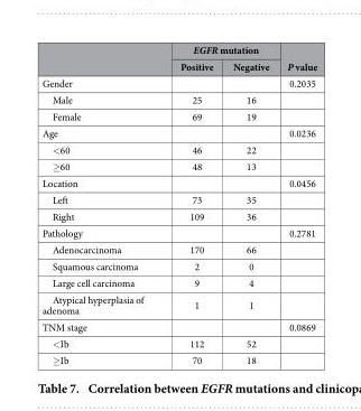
<table><thead><tr><td rowspan="2"></td><td colspan="2">EGFR mutation</td><td rowspan="2">P value</td></tr><tr><td>Positive</td><td>Negative</td></tr></thead><tbody><tr><td>Gender</td><td></td><td></td><td>0.2035</td></tr><tr><td>Male</td><td>25</td><td>16</td><td></td></tr><tr><td>Female</td><td>69</td><td>19</td><td></td></tr><tr><td>Age</td><td></td><td></td><td>0.0236</td></tr><tr><td>&lt; 60</td><td>46</td><td>22</td><td></td></tr><tr><td>≥ 60</td><td>48</td><td>13</td><td></td></tr><tr><td>Location</td><td></td><td></td><td>0.0456</td></tr><tr><td>Left</td><td>73</td><td>35</td><td></td></tr><tr><td>Right</td><td>109</td><td>36</td><td></td></tr><tr><td>Pathology</td><td></td><td></td><td>0.2781</td></tr><tr><td>Adenocarcinoma</td><td>170</td><td>66</td><td></td></tr><tr><td>Squamous carcinoma</td><td>2</td><td>0</td><td></td></tr><tr><td>Large cell carcinoma</td><td>9</td><td>4</td><td></td></tr><tr><td>Atypical hyperplasia of adenoma</td><td>1</td><td>1</td><td></td></tr><tr><td>TNM stage</td><td></td><td></td><td>0.0869</td></tr><tr><td>&lt; Ib</td><td>112</td><td>52</td><td></td></tr><tr><td>≥ Ib</td><td>70</td><td>18</td><td></td></tr></tbody></table>